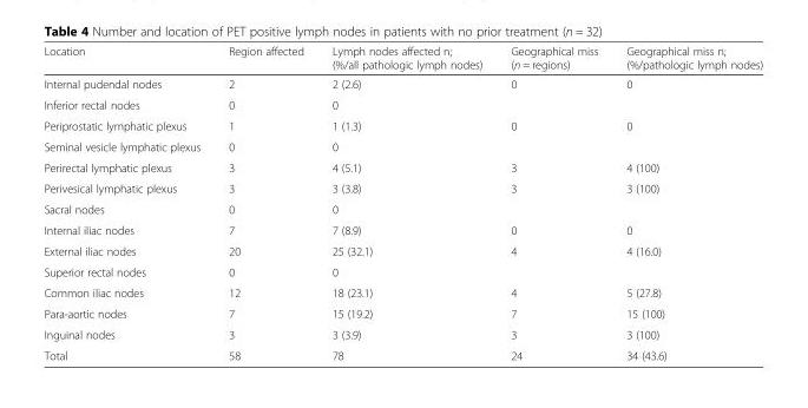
<table><thead><tr><td>Location</td><td>Region affected</td><td>Lymph nodes affected n; (%/all pathologic lymph nodes)</td><td>Geographical miss (n = regions)</td><td>Geographical miss n; (%/pathologic lymph nodes)</td></tr></thead><tbody><tr><td>Internal pudendal nodes</td><td>2</td><td>2 (2.6)</td><td>0</td><td>0</td></tr><tr><td>Inferior rectal nodes</td><td>0</td><td>0</td><td></td><td></td></tr><tr><td>Periprostatic lymphatic plexus</td><td>1</td><td>1 (1.3)</td><td>0</td><td>0</td></tr><tr><td>Seminal vesicle lymphatic plexus</td><td>0</td><td>0</td><td></td><td></td></tr><tr><td>Perirectal lymphatic plexus</td><td>3</td><td>4 (5.1)</td><td>3</td><td>4 (100)</td></tr><tr><td>Perivesical lymphatic plexus</td><td>3</td><td>3 (3.8)</td><td>3</td><td>3 (100)</td></tr><tr><td>Sacral nodes</td><td>0</td><td>0</td><td></td><td></td></tr><tr><td>Internal iliac nodes</td><td>7</td><td>7 (8.9)</td><td>0</td><td>0</td></tr><tr><td>External iliac nodes</td><td>20</td><td>25 (32.1)</td><td>4</td><td>4 (16.0)</td></tr><tr><td>Superior rectal nodes</td><td>0</td><td>0</td><td></td><td></td></tr><tr><td>Common iliac nodes</td><td>12</td><td>18 (23.1)</td><td>4</td><td>5 (27.8)</td></tr><tr><td>Para-aortic nodes</td><td>7</td><td>15 (19.2)</td><td>7</td><td>15 (100)</td></tr><tr><td>Inguinal nodes</td><td>3</td><td>3 (3.9)</td><td>3</td><td>3 (100)</td></tr><tr><td>Total</td><td>58</td><td>78</td><td>24</td><td>34 (43.6)</td></tr></tbody></table>